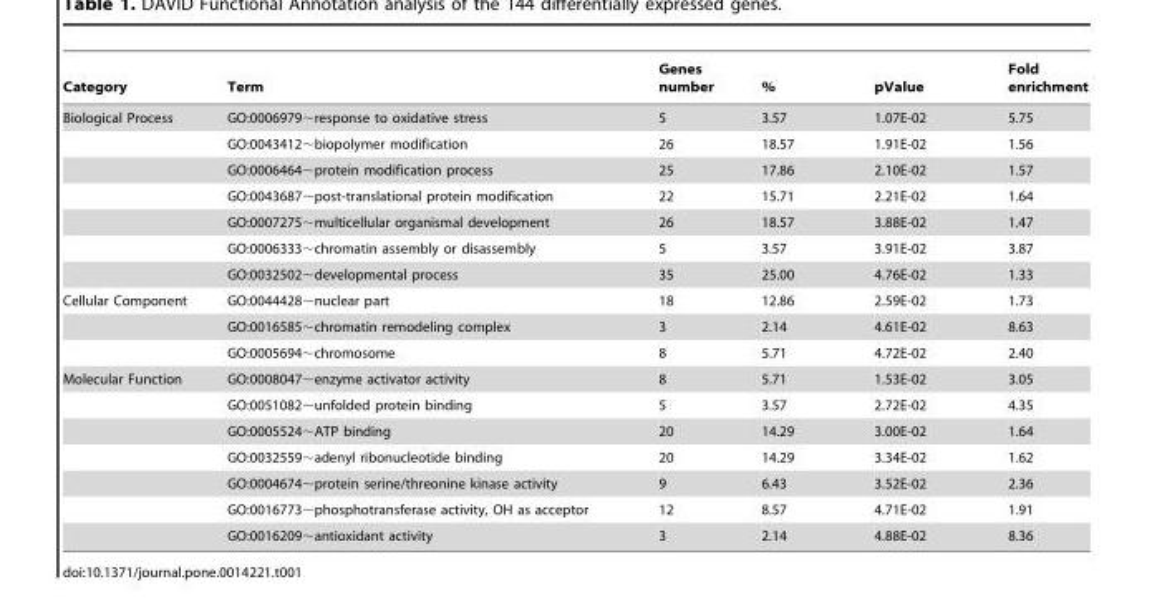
<table><thead><tr><td>Category</td><td>Term</td><td>Genes number</td><td>%</td><td>pValue</td><td>Fold enrichment</td></tr></thead><tbody><tr><td rowspan="7">Biological Process</td><td>GO:0006979∼response to oxidative stress</td><td>5</td><td>3.57</td><td>1.07E-02</td><td>5.75</td></tr><tr><td>GO:0043412∼biopolymer modification</td><td>26</td><td>18.57</td><td>1.91E-02</td><td>1.56</td></tr><tr><td>GO:0006464∼protein modification process</td><td>25</td><td>17.86</td><td>2.10E-02</td><td>1.57</td></tr><tr><td>GO:0043687∼post-translational protein modification</td><td>22</td><td>15.71</td><td>2.21E-02</td><td>1.64</td></tr><tr><td>GO:0007275∼multicellular organismal development</td><td>26</td><td>18.57</td><td>3.88E-02</td><td>1.47</td></tr><tr><td>GO:0006333∼chromatin assembly or disassembly</td><td>5</td><td>3.57</td><td>3.91E-02</td><td>3.87</td></tr><tr><td>GO:0032502∼developmental process</td><td>35</td><td>25.00</td><td>4.76E-02</td><td>1.33</td></tr><tr><td rowspan="3">Cellular Component</td><td>GO:0044428∼nuclear part</td><td>18</td><td>12.86</td><td>2.59E-02</td><td>1.73</td></tr><tr><td>GO:0016585∼chromatin remodeling complex</td><td>3</td><td>2.14</td><td>4.61E-02</td><td>8.63</td></tr><tr><td>GO:0005694∼chromosome</td><td>8</td><td>5.71</td><td>4.72E-02</td><td>2.40</td></tr><tr><td rowspan="7">Molecular Function</td><td>GO:0008047∼enzyme activator activity</td><td>8</td><td>5.71</td><td>1.53E-02</td><td>3.05</td></tr><tr><td>GO:0051082∼unfolded protein binding</td><td>5</td><td>3.57</td><td>2.72E-02</td><td>4.35</td></tr><tr><td>GO:0005524∼ATP binding</td><td>20</td><td>14.29</td><td>3.00E-02</td><td>1.64</td></tr><tr><td>GO:0032559∼adenyl ribonucleotide binding</td><td>20</td><td>14.29</td><td>3.34E-02</td><td>1.62</td></tr><tr><td>GO:0004674∼protein serine/threonine kinase activity</td><td>9</td><td>6.43</td><td>3.52E-02</td><td>2.36</td></tr><tr><td>GO:0016773∼phosphotransferase activity, OH as acceptor</td><td>12</td><td>8.57</td><td>4.71E-02</td><td>1.91</td></tr><tr><td>GO:0016209∼antioxidant activity</td><td>3</td><td>2.14</td><td>4.88E-02</td><td>8.36</td></tr></tbody></table>